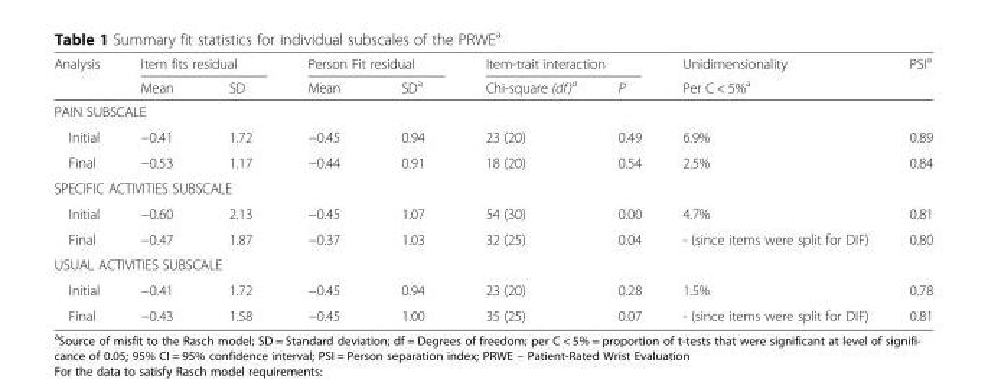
<table><thead><tr><td rowspan="2">Analysis</td><td colspan="2">Item fits residual</td><td colspan="2">Person Fit residual</td><td colspan="2">Item-trait interaction</td><td rowspan="2">Unidimensionality Per C &lt; 5%<sup>a</sup></td><td rowspan="2">PSI<sup>a</sup></td></tr><tr><td>Mean</td><td>SD</td><td>Mean</td><td>SD<sup>a</sup></td><td>Chi-square (df)<sup>a</sup></td><td>P</td></tr></thead><tbody><tr><td colspan="9">PAIN SUBSCALE</td></tr><tr><td>Initial</td><td>−0.41</td><td>1.72</td><td>−0.45</td><td>0.94</td><td>23 (20)</td><td>0.49</td><td>6.9%</td><td>0.89</td></tr><tr><td>Final</td><td>−0.53</td><td>1.17</td><td>−0.44</td><td>0.91</td><td>18 (20)</td><td>0.54</td><td>2.5%</td><td>0.84</td></tr><tr><td colspan="9">SPECIFIC ACTIVITIES SUBSCALE</td></tr><tr><td>Initial</td><td>−0.60</td><td>2.13</td><td>−0.45</td><td>1.07</td><td>54 (30)</td><td>0.00</td><td>4.7%</td><td>0.81</td></tr><tr><td>Final</td><td>−0.47</td><td>1.87</td><td>−0.37</td><td>1.03</td><td>32 (25)</td><td>0.04</td><td>- (since items were split for DIF)</td><td>0.80</td></tr><tr><td colspan="9">USUAL ACTIVITIES SUBSCALE</td></tr><tr><td>Initial</td><td>−0.41</td><td>1.72</td><td>−0.45</td><td>0.94</td><td>23 (20)</td><td>0.28</td><td>1.5%</td><td>0.78</td></tr><tr><td>Final</td><td>−0.43</td><td>1.58</td><td>−0.45</td><td>1.00</td><td>35 (25)</td><td>0.07</td><td>- (since items were split for DIF)</td><td>0.81</td></tr></tbody></table>